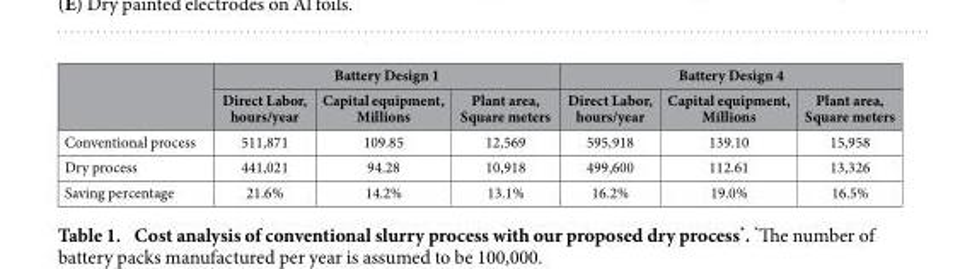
<table><thead><tr><td rowspan="2"></td><td colspan="3">Battery Design 1</td><td colspan="3">Battery Design 4</td></tr><tr><td>Direct Labor, hours/year</td><td>Capital equipment, Millions</td><td>Plant area, Square meters</td><td>Direct Labor, hours/year</td><td>Capital equipment, Millions</td><td>Plant area, Square meters</td></tr></thead><tbody><tr><td>Conventional process</td><td>511,871</td><td>109.85</td><td>12,569</td><td>595,918</td><td>139.10</td><td>15,958</td></tr><tr><td>Dry process</td><td>441,021</td><td>94.28</td><td>10,918</td><td>499,600</td><td>112.61</td><td>13,326</td></tr><tr><td>Saving percentage</td><td>21.6%</td><td>14.2%</td><td>13.1%</td><td>16.2%</td><td>19.0%</td><td>16.5%</td></tr></tbody></table>